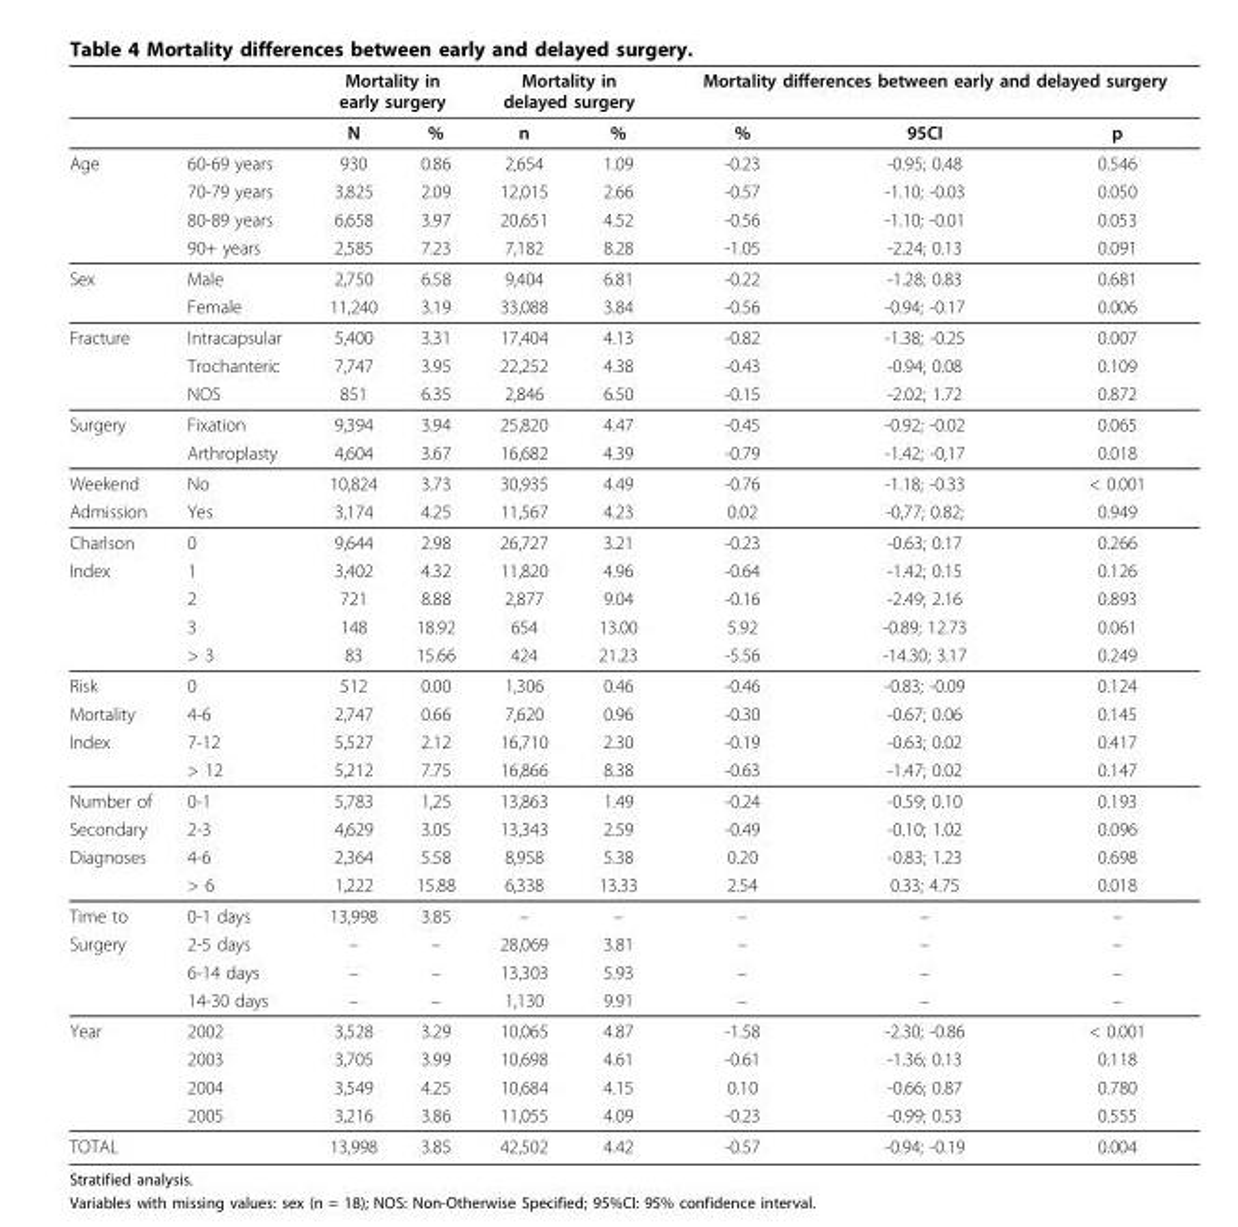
<table><thead><tr><td rowspan="2"></td><td rowspan="2"></td><td colspan="2">Mortality in early surgery</td><td colspan="2">Mortality in delayed surgery</td><td colspan="3">Mortality differences between early and delayed surgery</td></tr><tr><td>N</td><td>%</td><td>n</td><td>%</td><td>%</td><td>95CI</td><td>p</td></tr></thead><tbody><tr><td rowspan="4">Age</td><td>60-69 years</td><td>930</td><td>0.86</td><td>2,654</td><td>1.09</td><td>-0.23</td><td>-0.95; 0.48</td><td>0.546</td></tr><tr><td>70-79 years</td><td>3,825</td><td>2.09</td><td>12,015</td><td>2.66</td><td>-0.57</td><td>-1.10; -0.03</td><td>0.050</td></tr><tr><td>80-89 years</td><td>6,658</td><td>3.97</td><td>20,651</td><td>4.52</td><td>-0.56</td><td>-1.10; -0.01</td><td>0.053</td></tr><tr><td>90+ years</td><td>2,585</td><td>7.23</td><td>7,182</td><td>8.28</td><td>-1.05</td><td>-2.24; 0.13</td><td>0.091</td></tr><tr><td rowspan="2">Sex</td><td>Male</td><td>2,750</td><td>6.58</td><td>9,404</td><td>6.81</td><td>-0.22</td><td>-1.28; 0.83</td><td>0.681</td></tr><tr><td>Female</td><td>11,240</td><td>3.19</td><td>33,088</td><td>3.84</td><td>-0.56</td><td>-0.94; -0.17</td><td>0.006</td></tr><tr><td rowspan="3">Fracture</td><td>Intracapsular</td><td>5,400</td><td>3.31</td><td>17,404</td><td>4.13</td><td>-0.82</td><td>-1.38; -0.25</td><td>0.007</td></tr><tr><td>Trochanteric</td><td>7,747</td><td>3.95</td><td>22,252</td><td>4.38</td><td>-0.43</td><td>-0.94; 0.08</td><td>0.109</td></tr><tr><td>NOS</td><td>851</td><td>6.35</td><td>2,846</td><td>6.50</td><td>-0.15</td><td>-2.02; 1.72</td><td>0.872</td></tr><tr><td rowspan="2">Surgery</td><td>Fixation</td><td>9,394</td><td>3.94</td><td>25,820</td><td>4.47</td><td>-0.45</td><td>-0.92; -0.02</td><td>0.065</td></tr><tr><td>Arthroplasty</td><td>4,604</td><td>3.67</td><td>16,682</td><td>4.39</td><td>-0.79</td><td>-1.42; -0,17</td><td>0.018</td></tr><tr><td>Weekend</td><td>No</td><td>10,824</td><td>3.73</td><td>30,935</td><td>4.49</td><td>-0.76</td><td>-1.18; -0.33</td><td>&lt; 0.001</td></tr><tr><td>Admission</td><td>Yes</td><td>3,174</td><td>4.25</td><td>11,567</td><td>4.23</td><td>0.02</td><td>-0,77; 0.82;</td><td>0.949</td></tr><tr><td>Charlson</td><td>0</td><td>9,644</td><td>2.98</td><td>26,727</td><td>3.21</td><td>-0.23</td><td>-0.63; 0.17</td><td>0.266</td></tr><tr><td rowspan="4">Index</td><td>1</td><td>3,402</td><td>4.32</td><td>11,820</td><td>4.96</td><td>-0.64</td><td>-1.42; 0.15</td><td>0.126</td></tr><tr><td>2</td><td>721</td><td>8.88</td><td>2,877</td><td>9.04</td><td>-0.16</td><td>-2.49; 2.16</td><td>0.893</td></tr><tr><td>3</td><td>148</td><td>18.92</td><td>654</td><td>13.00</td><td>5.92</td><td>-0.89; 12.73</td><td>0.061</td></tr><tr><td>&gt; 3</td><td>83</td><td>15.66</td><td>424</td><td>21.23</td><td>-5.56</td><td>-14.30; 3.17</td><td>0.249</td></tr><tr><td>Risk</td><td>0</td><td>512</td><td>0.00</td><td>1,306</td><td>0.46</td><td>-0.46</td><td>-0.83; -0.09</td><td>0.124</td></tr><tr><td>Mortality</td><td>4-6</td><td>2,747</td><td>0.66</td><td>7,620</td><td>0.96</td><td>-0.30</td><td>-0.67; 0.06</td><td>0.145</td></tr><tr><td rowspan="2">Index</td><td>7-12</td><td>5,527</td><td>2.12</td><td>16,710</td><td>2.30</td><td>-0.19</td><td>-0.63; 0.02</td><td>0.417</td></tr><tr><td>&gt; 12</td><td>5,212</td><td>7.75</td><td>16,866</td><td>8.38</td><td>-0.63</td><td>-1.47; 0.02</td><td>0.147</td></tr><tr><td>Number of</td><td>0-1</td><td>5,783</td><td>1,25</td><td>13,863</td><td>1.49</td><td>-0.24</td><td>-0.59; 0.10</td><td>0.193</td></tr><tr><td>Secondary</td><td>2-3</td><td>4,629</td><td>3.05</td><td>13,343</td><td>2.59</td><td>-0.49</td><td>-0.10; 1.02</td><td>0.096</td></tr><tr><td rowspan="2">Diagnoses</td><td>4-6</td><td>2,364</td><td>5.58</td><td>8,958</td><td>5.38</td><td>0.20</td><td>-0.83; 1.23</td><td>0.698</td></tr><tr><td>&gt; 6</td><td>1,222</td><td>15.88</td><td>6,338</td><td>13.33</td><td>2.54</td><td>0.33; 4.75</td><td>0.018</td></tr><tr><td>Time to</td><td>0-1 days</td><td>13,998</td><td>3.85</td><td>–</td><td>–</td><td>–</td><td>–</td><td>–</td></tr><tr><td rowspan="3">Surgery</td><td>2-5 days</td><td>–</td><td>–</td><td>28,069</td><td>3.81</td><td>–</td><td>–</td><td>–</td></tr><tr><td>6-14 days</td><td>–</td><td>–</td><td>13,303</td><td>5.93</td><td>–</td><td>–</td><td>–</td></tr><tr><td>14-30 days</td><td>–</td><td>–</td><td>1,130</td><td>9.91</td><td>–</td><td>–</td><td>–</td></tr><tr><td rowspan="4">Year</td><td>2002</td><td>3,528</td><td>3.29</td><td>10,065</td><td>4.87</td><td>-1.58</td><td>-2.30; -0.86</td><td>&lt; 0.001</td></tr><tr><td>2003</td><td>3,705</td><td>3.99</td><td>10,698</td><td>4.61</td><td>-0.61</td><td>-1.36; 0.13</td><td>0.118</td></tr><tr><td>2004</td><td>3,549</td><td>4.25</td><td>10,684</td><td>4.15</td><td>0.10</td><td>-0.66; 0.87</td><td>0.780</td></tr><tr><td>2005</td><td>3,216</td><td>3.86</td><td>11,055</td><td>4.09</td><td>-0.23</td><td>-0.99; 0.53</td><td>0.555</td></tr><tr><td>TOTAL</td><td></td><td>13,998</td><td>3.85</td><td>42,502</td><td>4.42</td><td>-0.57</td><td>-0.94; -0.19</td><td>0.004</td></tr></tbody></table>